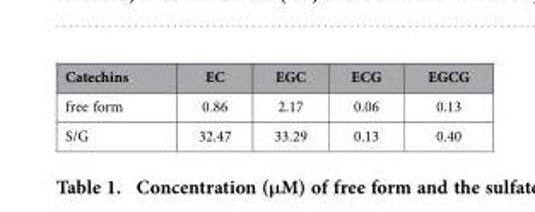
<table><thead><tr><td>Catechins</td><td>EC</td><td>EGC</td><td>ECG</td><td>EGCG</td></tr></thead><tbody><tr><td>free form</td><td>0.86</td><td>2.17</td><td>0.06</td><td>0.13</td></tr><tr><td>S/G</td><td>32.47</td><td>33.29</td><td>0.13</td><td>0.40</td></tr></tbody></table>